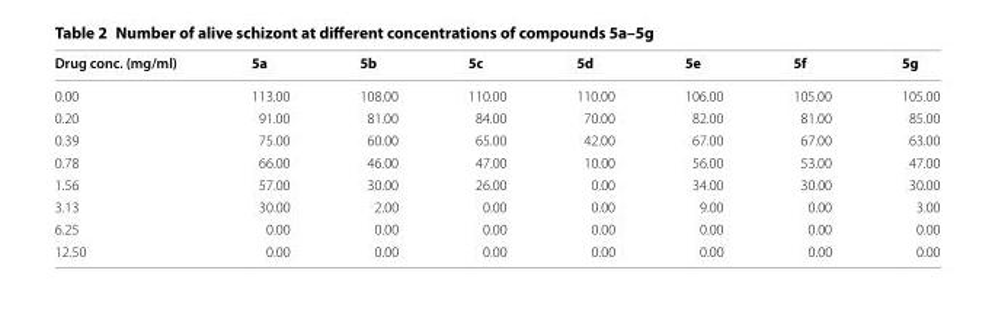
<table><thead><tr><td>Drug conc. (mg/ml)</td><td>5a</td><td>5b</td><td>5c</td><td>5d</td><td>5e</td><td>5f</td><td>5g</td></tr></thead><tbody><tr><td>0.00</td><td>113.00</td><td>108.00</td><td>110.00</td><td>110.00</td><td>106.00</td><td>105.00</td><td>105.00</td></tr><tr><td>0.20</td><td>91.00</td><td>81.00</td><td>84.00</td><td>70.00</td><td>82.00</td><td>81.00</td><td>85.00</td></tr><tr><td>0.39</td><td>75.00</td><td>60.00</td><td>65.00</td><td>42.00</td><td>67.00</td><td>67.00</td><td>63.00</td></tr><tr><td>0.78</td><td>66.00</td><td>46.00</td><td>47.00</td><td>10.00</td><td>56.00</td><td>53.00</td><td>47.00</td></tr><tr><td>1.56</td><td>57.00</td><td>30.00</td><td>26.00</td><td>0.00</td><td>34.00</td><td>30.00</td><td>30.00</td></tr><tr><td>3.13</td><td>30.00</td><td>2.00</td><td>0.00</td><td>0.00</td><td>9.00</td><td>0.00</td><td>3.00</td></tr><tr><td>6.25</td><td>0.00</td><td>0.00</td><td>0.00</td><td>0.00</td><td>0.00</td><td>0.00</td><td>0.00</td></tr><tr><td>12.50</td><td>0.00</td><td>0.00</td><td>0.00</td><td>0.00</td><td>0.00</td><td>0.00</td><td>0.00</td></tr></tbody></table>